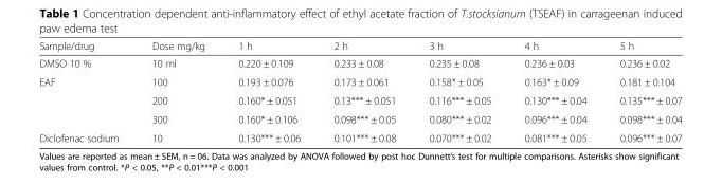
<table><thead><tr><td>Sample/drug</td><td>Dose mg/kg</td><td>1 h</td><td>2 h</td><td>3 h</td><td>4 h</td><td>5 h</td></tr></thead><tbody><tr><td>DMSO 10 %</td><td>10 ml</td><td>0.220 ± 0.109</td><td>0.233 ± 0.08</td><td>0.235 ± 0.08</td><td>0.236 ± 0.03</td><td>0.236 ± 0.02</td></tr><tr><td rowspan="3">EAF</td><td>100</td><td>0.193 ± 0.076</td><td>0.173 ± 0.061</td><td>0.158* ± 0.05</td><td>0.163* ± 0.09</td><td>0.181 ± 0.104</td></tr><tr><td>200</td><td>0.160* ± 0.051</td><td>0.13*** ± 0.051</td><td>0.116*** ± 0.05</td><td>0.130*** ± 0.04</td><td>0.135*** ± 0.07</td></tr><tr><td>300</td><td>0.160* ± 0.106</td><td>0.098*** ± 0.05</td><td>0.080*** ± 0.02</td><td>0.096*** ± 0.04</td><td>0.098*** ± 0.04</td></tr><tr><td>Diclofenac sodium</td><td>10</td><td>0.130*** ± 0.06</td><td>0.101*** ± 0.08</td><td>0.070*** ± 0.02</td><td>0.081*** ± 0.05</td><td>0.096*** ± 0.07</td></tr></tbody></table>